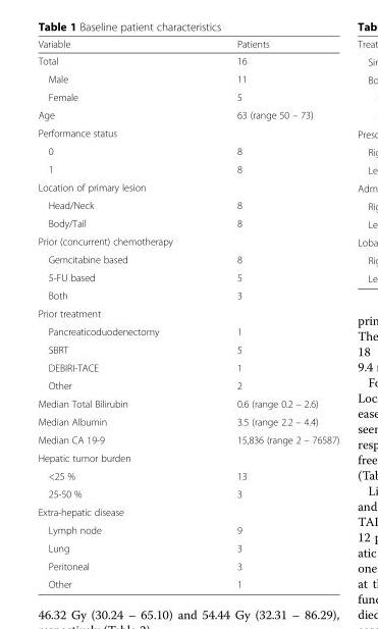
<table><thead><tr><td>Variable</td><td>Patients</td></tr></thead><tbody><tr><td>Total</td><td>16</td></tr><tr><td>Male</td><td>11</td></tr><tr><td>Female</td><td>5</td></tr><tr><td>Age</td><td>63 (range 50 – 73)</td></tr><tr><td colspan="2">Performance status</td></tr><tr><td>0</td><td>8</td></tr><tr><td>1</td><td>8</td></tr><tr><td colspan="2">Location of primary lesion</td></tr><tr><td>Head/Neck</td><td>8</td></tr><tr><td>Body/Tail</td><td>8</td></tr><tr><td colspan="2">Prior (concurrent) chemotherapy</td></tr><tr><td>Gemcitabine based</td><td>8</td></tr><tr><td>5-FU based</td><td>5</td></tr><tr><td>Both</td><td>3</td></tr><tr><td colspan="2">Prior treatment</td></tr><tr><td>Pancreaticoduodenectomy</td><td>1</td></tr><tr><td>SBRT</td><td>5</td></tr><tr><td>DEBIRI-TACE</td><td>1</td></tr><tr><td>Other</td><td>2</td></tr><tr><td>Median Total Bilirubin</td><td>0.6 (range 0.2 – 2.6)</td></tr><tr><td>Median Albumin</td><td>3.5 (range 2.2 – 4.4)</td></tr><tr><td>Median CA 19-9</td><td>15,836 (range 2 – 76587)</td></tr><tr><td colspan="2">Hepatic tumor burden</td></tr><tr><td>&lt;25 %</td><td>13</td></tr><tr><td>25-50 %</td><td>3</td></tr><tr><td colspan="2">Extra-hepatic disease</td></tr><tr><td>Lymph node</td><td>9</td></tr><tr><td>Lung</td><td>3</td></tr><tr><td>Peritoneal</td><td>3</td></tr><tr><td>Other</td><td>1</td></tr></tbody></table>